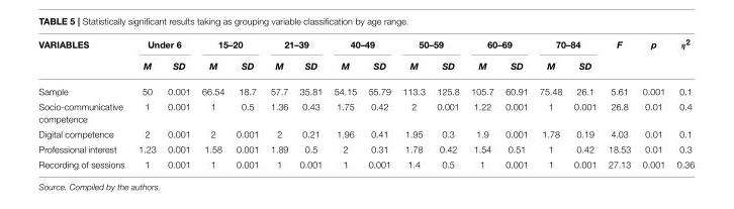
<table><thead><tr><td rowspan="2">VARIABLES</td><td colspan="2">Under 6</td><td colspan="2">15–20</td><td colspan="2">21–39</td><td colspan="2">40–49</td><td colspan="2">50–59</td><td colspan="2">60–69</td><td colspan="2">70–84</td><td rowspan="2">F</td><td rowspan="2">p</td><td rowspan="2">η<sup>2</sup></td></tr><tr><td>M</td><td>SD</td><td>M</td><td>SD</td><td>M</td><td>SD</td><td>M</td><td>SD</td><td>M</td><td>SD</td><td>M</td><td>SD</td><td>M</td><td>SD</td></tr></thead><tbody><tr><td>Sample</td><td>50</td><td>0.001</td><td>66.54</td><td>18.7</td><td>57.7</td><td>35.81</td><td>54.15</td><td>55.79</td><td>113.3</td><td>125.8</td><td>105.7</td><td>60.91</td><td>75.48</td><td>26.1</td><td>5.61</td><td>0.001</td><td>0.1</td></tr><tr><td>Socio-communicative competence</td><td>1</td><td>0.001</td><td>1</td><td>0.5</td><td>1.36</td><td>0.43</td><td>1.75</td><td>0.42</td><td>2</td><td>0.001</td><td>1.22</td><td>0.001</td><td>1</td><td>0.001</td><td>26.8</td><td>0.01</td><td>0.4</td></tr><tr><td>Digital competence</td><td>2</td><td>0.001</td><td>2</td><td>0.001</td><td>2</td><td>0.21</td><td>1.96</td><td>0.41</td><td>1.95</td><td>0.3</td><td>1.9</td><td>0.001</td><td>1.78</td><td>0.19</td><td>4.03</td><td>0.01</td><td>0.1</td></tr><tr><td>Professional interest</td><td>1.23</td><td>0.001</td><td>1.58</td><td>0.001</td><td>1.89</td><td>0.5</td><td>2</td><td>0.31</td><td>1.78</td><td>0.42</td><td>1.54</td><td>0.51</td><td>1</td><td>0.42</td><td>18.53</td><td>0.01</td><td>0.3</td></tr><tr><td>Recording of sessions</td><td>1</td><td>0.001</td><td>1</td><td>0.001</td><td>1</td><td>0.001</td><td>1</td><td>0.001</td><td>1.4</td><td>0.5</td><td>1</td><td>0.001</td><td>1</td><td>0.001</td><td>27.13</td><td>0.001</td><td>0.36</td></tr></tbody></table>